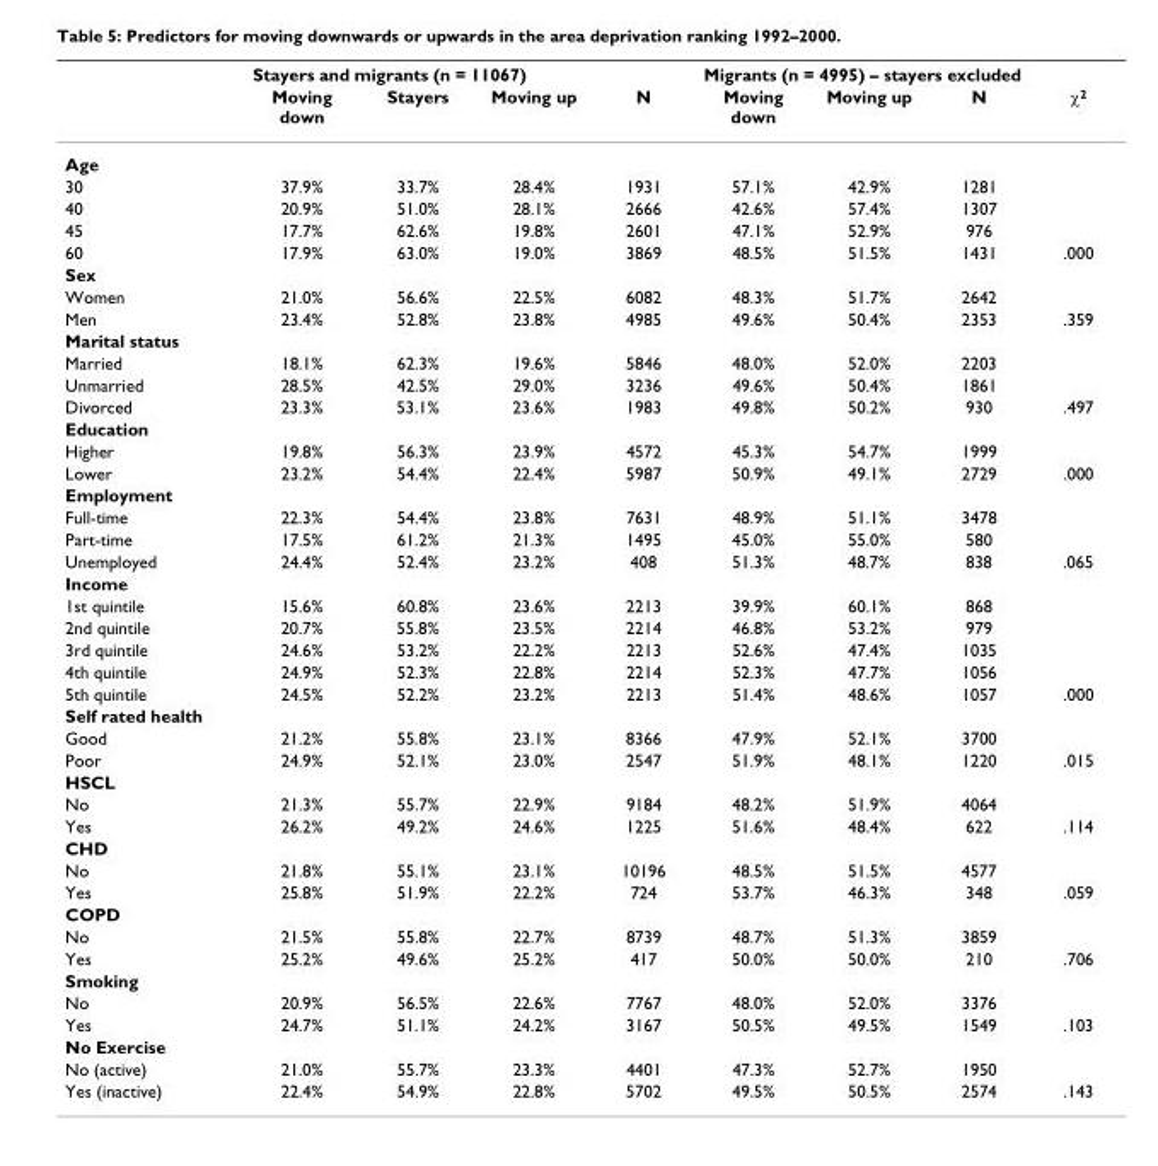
<table><thead><tr><td rowspan="2"></td><td colspan="4">Stayers and migrants (n = 11067)</td><td colspan="4">Migrants (n = 4995) – stayers excluded</td></tr><tr><td>Moving down</td><td>Stayers</td><td>Moving up</td><td>N</td><td>Moving down</td><td>Moving up</td><td>N</td><td>χ<sup>2</sup></td></tr></thead><tbody><tr><td colspan="9">Age</td></tr><tr><td>30</td><td>37.9%</td><td>33.7%</td><td>28.4%</td><td>1931</td><td>57.1%</td><td>42.9%</td><td>1281</td><td></td></tr><tr><td>40</td><td>20.9%</td><td>51.0%</td><td>28.1%</td><td>2666</td><td>42.6%</td><td>57.4%</td><td>1307</td><td></td></tr><tr><td>45</td><td>17.7%</td><td>62.6%</td><td>19.8%</td><td>2601</td><td>47.1%</td><td>52.9%</td><td>976</td><td></td></tr><tr><td>60</td><td>17.9%</td><td>63.0%</td><td>19.0%</td><td>3869</td><td>48.5%</td><td>51.5%</td><td>1431</td><td>.000</td></tr><tr><td colspan="9">Sex</td></tr><tr><td>Women</td><td>21.0%</td><td>56.6%</td><td>22.5%</td><td>6082</td><td>48.3%</td><td>51.7%</td><td>2642</td><td></td></tr><tr><td>Men</td><td>23.4%</td><td>52.8%</td><td>23.8%</td><td>4985</td><td>49.6%</td><td>50.4%</td><td>2353</td><td>.359</td></tr><tr><td colspan="9">Marital status</td></tr><tr><td>Married</td><td>18.1%</td><td>62.3%</td><td>19.6%</td><td>5846</td><td>48.0%</td><td>52.0%</td><td>2203</td><td></td></tr><tr><td>Unmarried</td><td>28.5%</td><td>42.5%</td><td>29.0%</td><td>3236</td><td>49.6%</td><td>50.4%</td><td>1861</td><td></td></tr><tr><td>Divorced</td><td>23.3%</td><td>53.1%</td><td>23.6%</td><td>1983</td><td>49.8%</td><td>50.2%</td><td>930</td><td>.497</td></tr><tr><td colspan="9">Education</td></tr><tr><td>Higher</td><td>19.8%</td><td>56.3%</td><td>23.9%</td><td>4572</td><td>45.3%</td><td>54.7%</td><td>1999</td><td></td></tr><tr><td>Lower</td><td>23.2%</td><td>54.4%</td><td>22.4%</td><td>5987</td><td>50.9%</td><td>49.1%</td><td>2729</td><td>.000</td></tr><tr><td colspan="9">Employment</td></tr><tr><td>Full-time</td><td>22.3%</td><td>54.4%</td><td>23.8%</td><td>7631</td><td>48.9%</td><td>51.1%</td><td>3478</td><td></td></tr><tr><td>Part-time</td><td>17.5%</td><td>61.2%</td><td>21.3%</td><td>1495</td><td>45.0%</td><td>55.0%</td><td>580</td><td></td></tr><tr><td>Unemployed</td><td>24.4%</td><td>52.4%</td><td>23.2%</td><td>408</td><td>51.3%</td><td>48.7%</td><td>838</td><td>.065</td></tr><tr><td colspan="9">Income</td></tr><tr><td>1st quintile</td><td>15.6%</td><td>60.8%</td><td>23.6%</td><td>2213</td><td>39.9%</td><td>60.1%</td><td>868</td><td></td></tr><tr><td>2nd quintile</td><td>20.7%</td><td>55.8%</td><td>23.5%</td><td>2214</td><td>46.8%</td><td>53.2%</td><td>979</td><td></td></tr><tr><td>3rd quintile</td><td>24.6%</td><td>53.2%</td><td>22.2%</td><td>2213</td><td>52.6%</td><td>47.4%</td><td>1035</td><td></td></tr><tr><td>4th quintile</td><td>24.9%</td><td>52.3%</td><td>22.8%</td><td>2214</td><td>52.3%</td><td>47.7%</td><td>1056</td><td></td></tr><tr><td>5th quintile</td><td>24.5%</td><td>52.2%</td><td>23.2%</td><td>2213</td><td>51.4%</td><td>48.6%</td><td>1057</td><td>.000</td></tr><tr><td colspan="9">Self rated health</td></tr><tr><td>Good</td><td>21.2%</td><td>55.8%</td><td>23.1%</td><td>8366</td><td>47.9%</td><td>52.1%</td><td>3700</td><td></td></tr><tr><td>Poor</td><td>24.9%</td><td>52.1%</td><td>23.0%</td><td>2547</td><td>51.9%</td><td>48.1%</td><td>1220</td><td>.015</td></tr><tr><td colspan="9">HSCL</td></tr><tr><td>No</td><td>21.3%</td><td>55.7%</td><td>22.9%</td><td>9184</td><td>48.2%</td><td>51.9%</td><td>4064</td><td></td></tr><tr><td>Yes</td><td>26.2%</td><td>49.2%</td><td>24.6%</td><td>1225</td><td>51.6%</td><td>48.4%</td><td>622</td><td>.114</td></tr><tr><td colspan="9">CHD</td></tr><tr><td>No</td><td>21.8%</td><td>55.1%</td><td>23.1%</td><td>10196</td><td>48.5%</td><td>51.5%</td><td>4577</td><td></td></tr><tr><td>Yes</td><td>25.8%</td><td>51.9%</td><td>22.2%</td><td>724</td><td>53.7%</td><td>46.3%</td><td>348</td><td>.059</td></tr><tr><td colspan="9">COPD</td></tr><tr><td>No</td><td>21.5%</td><td>55.8%</td><td>22.7%</td><td>8739</td><td>48.7%</td><td>51.3%</td><td>3859</td><td></td></tr><tr><td>Yes</td><td>25.2%</td><td>49.6%</td><td>25.2%</td><td>417</td><td>50.0%</td><td>50.0%</td><td>210</td><td>.706</td></tr><tr><td colspan="9">Smoking</td></tr><tr><td>No</td><td>20.9%</td><td>56.5%</td><td>22.6%</td><td>7767</td><td>48.0%</td><td>52.0%</td><td>3376</td><td></td></tr><tr><td>Yes</td><td>24.7%</td><td>51.1%</td><td>24.2%</td><td>3167</td><td>50.5%</td><td>49.5%</td><td>1549</td><td>.103</td></tr><tr><td colspan="9">No Exercise</td></tr><tr><td>No (active)</td><td>21.0%</td><td>55.7%</td><td>23.3%</td><td>4401</td><td>47.3%</td><td>52.7%</td><td>1950</td><td></td></tr><tr><td>Yes (inactive)</td><td>22.4%</td><td>54.9%</td><td>22.8%</td><td>5702</td><td>49.5%</td><td>50.5%</td><td>2574</td><td>.143</td></tr></tbody></table>